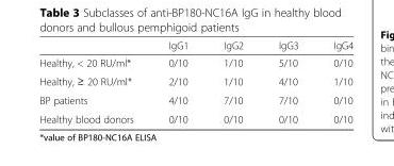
<table><thead><tr><td></td><td>IgG1</td><td>IgG2</td><td>IgG3</td><td>IgG4</td></tr></thead><tbody><tr><td>Healthy, &lt; 20 RU/ml*</td><td>0/10</td><td>1/10</td><td>5/10</td><td>0/10</td></tr><tr><td>Healthy, ≥ 20 RU/ml*</td><td>2/10</td><td>1/10</td><td>4/10</td><td>1/10</td></tr><tr><td>BP patients</td><td>4/10</td><td>7/10</td><td>7/10</td><td>0/10</td></tr><tr><td>Healthy blood donors</td><td>0/10</td><td>0/10</td><td>0/10</td><td>0/10</td></tr></tbody></table>